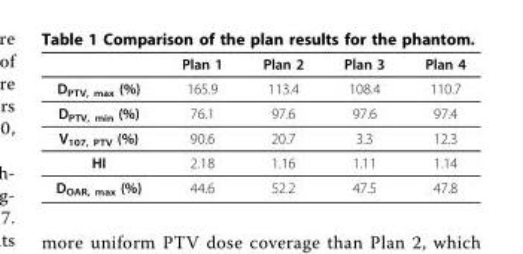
<table><thead><tr><td></td><td>Plan 1</td><td>Plan 2</td><td>Plan 3</td><td>Plan 4</td></tr></thead><tbody><tr><td>D<sub>PTV, max</sub> (%)</td><td>165.9</td><td>113.4</td><td>108.4</td><td>110.7</td></tr><tr><td>D<sub>PTV, min</sub> (%)</td><td>76.1</td><td>97.6</td><td>97.6</td><td>97.4</td></tr><tr><td>V<sub>107, PTV</sub> (%)</td><td>90.6</td><td>20.7</td><td>3.3</td><td>12.3</td></tr><tr><td>HI</td><td>2.18</td><td>1.16</td><td>1.11</td><td>1.14</td></tr><tr><td>D<sub>OAR, max</sub> (%)</td><td>44.6</td><td>52.2</td><td>47.5</td><td>47.8</td></tr></tbody></table>